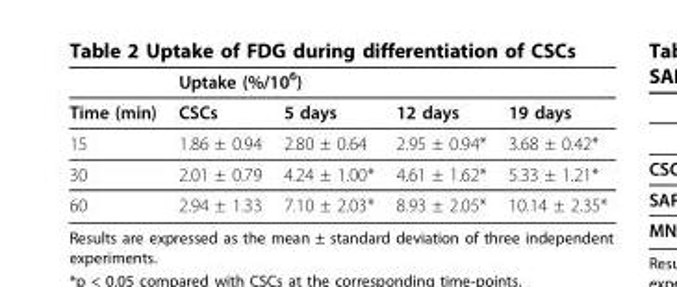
<table><thead><tr><td rowspan="2">Time (min)</td><td colspan="2">Uptake (%/10<sup>6</sup>)</td><td rowspan="2">12 days</td><td rowspan="2">19 days</td></tr><tr><td>CSCs</td><td>5 days</td></tr></thead><tbody><tr><td>15</td><td>1.86 ± 0.94</td><td>2.80 ± 0.64</td><td>2.95 ± 0.94*</td><td>3.68 ± 0.42*</td></tr><tr><td>30</td><td>2.01 ± 0.79</td><td>4.24 ± 1.00*</td><td>4.61 ± 1.62*</td><td>5.33 ± 1.21*</td></tr><tr><td>60</td><td>2.94 ± 1.33</td><td>7.10 ± 2.03*</td><td>8.93 ± 2.05*</td><td>10.14 ± 2.35*</td></tr></tbody></table>